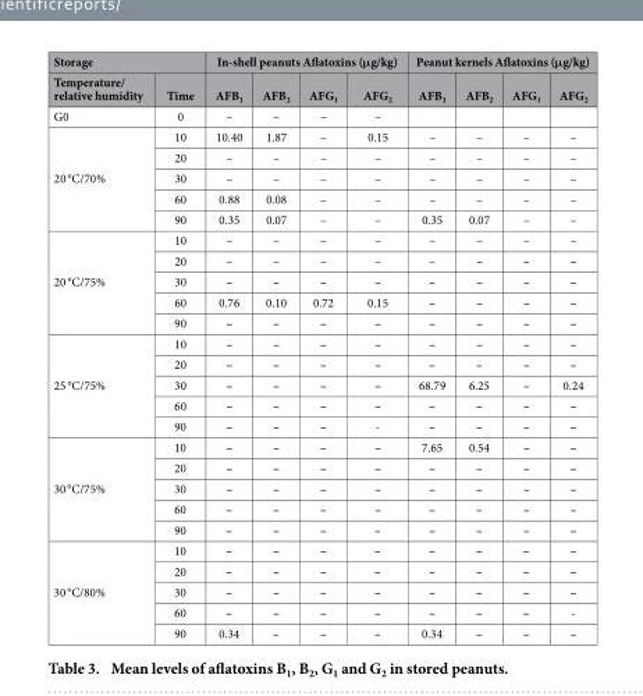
<table><thead><tr><td colspan="2">Storage</td><td colspan="4">In-shell peanuts Aflatoxins (μg/kg)</td><td colspan="4">Peanut kernels Aflatoxins (μg/kg)</td></tr><tr><td>Temperature/ relative humidity</td><td>Time</td><td>AFB<sub>1</sub></td><td>AFB<sub>2</sub></td><td>AFG<sub>1</sub></td><td>AFG<sub>2</sub></td><td>AFB<sub>1</sub></td><td>AFB<sub>2</sub></td><td>AFG<sub>1</sub></td><td>AFG<sub>2</sub></td></tr></thead><tbody><tr><td>G0</td><td>0</td><td>–</td><td>–</td><td>–</td><td>–</td><td></td><td></td><td></td><td></td></tr><tr><td rowspan="5">20 °C/70%</td><td>10</td><td>10.40</td><td>1.87</td><td>–</td><td>0.15</td><td>–</td><td>–</td><td>–</td><td>–</td></tr><tr><td>20</td><td>–</td><td>–</td><td>–</td><td>–</td><td>–</td><td>–</td><td>–</td><td>–</td></tr><tr><td>30</td><td>–</td><td>–</td><td>–</td><td>–</td><td>–</td><td>–</td><td>–</td><td>–</td></tr><tr><td>60</td><td>0.88</td><td>0.08</td><td>–</td><td>–</td><td>–</td><td>–</td><td>–</td><td>–</td></tr><tr><td>90</td><td>0.35</td><td>0.07</td><td>–</td><td>–</td><td>0.35</td><td>0.07</td><td>–</td><td>–</td></tr><tr><td rowspan="5">20 °C/75%</td><td>10</td><td>–</td><td>–</td><td>–</td><td>–</td><td>–</td><td>–</td><td>–</td><td>–</td></tr><tr><td>20</td><td>–</td><td>–</td><td>–</td><td>–</td><td>–</td><td>–</td><td>–</td><td>–</td></tr><tr><td>30</td><td>–</td><td>–</td><td>–</td><td>–</td><td>–</td><td>–</td><td>–</td><td>–</td></tr><tr><td>60</td><td>0.76</td><td>0.10</td><td>0.72</td><td>0.15</td><td>–</td><td>–</td><td>–</td><td>–</td></tr><tr><td>90</td><td>–</td><td>–</td><td>–</td><td>–</td><td>–</td><td>–</td><td>–</td><td>–</td></tr><tr><td rowspan="5">25 °C/75%</td><td>10</td><td>–</td><td>–</td><td>–</td><td>–</td><td>–</td><td>–</td><td>–</td><td>–</td></tr><tr><td>20</td><td>–</td><td>–</td><td>–</td><td>–</td><td>–</td><td>–</td><td>–</td><td>–</td></tr><tr><td>30</td><td>–</td><td>–</td><td>–</td><td>–</td><td>68.79</td><td>6.25</td><td>–</td><td>0.24</td></tr><tr><td>60</td><td>–</td><td>–</td><td>–</td><td>–</td><td>–</td><td>–</td><td>–</td><td>–</td></tr><tr><td>90</td><td>–</td><td>–</td><td>–</td><td>-</td><td>–</td><td>–</td><td>–</td><td>–</td></tr><tr><td rowspan="5">30 °C/75%</td><td>10</td><td>–</td><td>–</td><td>–</td><td>–</td><td>7.65</td><td>0.54</td><td>–</td><td>–</td></tr><tr><td>20</td><td>–</td><td>–</td><td>–</td><td>–</td><td>–</td><td>–</td><td>–</td><td>–</td></tr><tr><td>30</td><td>–</td><td>–</td><td>–</td><td>–</td><td>–</td><td>–</td><td>–</td><td>–</td></tr><tr><td>60</td><td>–</td><td>–</td><td>–</td><td>–</td><td>–</td><td>–</td><td>–</td><td>–</td></tr><tr><td>90</td><td>–</td><td>–</td><td>–</td><td>–</td><td>–</td><td>–</td><td>–</td><td>–</td></tr><tr><td rowspan="5">30 °C/80%</td><td>10</td><td>–</td><td>–</td><td>–</td><td>–</td><td>–</td><td>–</td><td>–</td><td>–</td></tr><tr><td>20</td><td>–</td><td>–</td><td>–</td><td>–</td><td>–</td><td>–</td><td>–</td><td>–</td></tr><tr><td>30</td><td>–</td><td>–</td><td>–</td><td>–</td><td>–</td><td>–</td><td>–</td><td>–</td></tr><tr><td>60</td><td>–</td><td>–</td><td>–</td><td>–</td><td>–</td><td>–</td><td>–</td><td>-</td></tr><tr><td>90</td><td>0.34</td><td>–</td><td>–</td><td>–</td><td>0.34</td><td>–</td><td>–</td><td>–</td></tr></tbody></table>